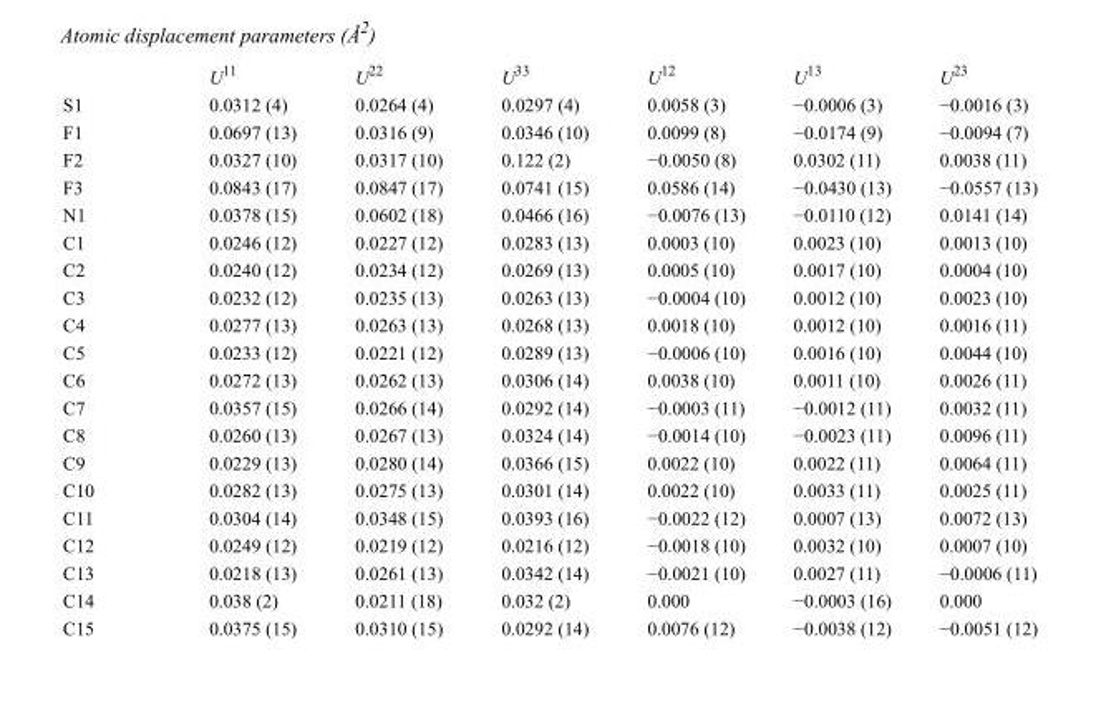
<table><thead><tr><td></td><td>U<sup>11</sup></td><td>U<sup>22</sup></td><td>U<sup>33</sup></td><td>U<sup>12</sup></td><td>U<sup>13</sup></td><td>U<sup>23</sup></td></tr></thead><tbody><tr><td>S1</td><td>0.0312 (4)</td><td>0.0264 (4)</td><td>0.0297 (4)</td><td>0.0058 (3)</td><td>−0.0006 (3)</td><td>−0.0016 (3)</td></tr><tr><td>F1</td><td>0.0697 (13)</td><td>0.0316 (9)</td><td>0.0346 (10)</td><td>0.0099 (8)</td><td>−0.0174 (9)</td><td>−0.0094 (7)</td></tr><tr><td>F2</td><td>0.0327 (10)</td><td>0.0317 (10)</td><td>0.122 (2)</td><td>−0.0050 (8)</td><td>0.0302 (11)</td><td>0.0038 (11)</td></tr><tr><td>F3</td><td>0.0843 (17)</td><td>0.0847 (17)</td><td>0.0741 (15)</td><td>0.0586 (14)</td><td>−0.0430 (13)</td><td>−0.0557 (13)</td></tr><tr><td>N1</td><td>0.0378 (15)</td><td>0.0602 (18)</td><td>0.0466 (16)</td><td>−0.0076 (13)</td><td>−0.0110 (12)</td><td>0.0141 (14)</td></tr><tr><td>C1</td><td>0.0246 (12)</td><td>0.0227 (12)</td><td>0.0283 (13)</td><td>0.0003 (10)</td><td>0.0023 (10)</td><td>0.0013 (10)</td></tr><tr><td>C2</td><td>0.0240 (12)</td><td>0.0234 (12)</td><td>0.0269 (13)</td><td>0.0005 (10)</td><td>0.0017 (10)</td><td>0.0004 (10)</td></tr><tr><td>C3</td><td>0.0232 (12)</td><td>0.0235 (13)</td><td>0.0263 (13)</td><td>−0.0004 (10)</td><td>0.0012 (10)</td><td>0.0023 (10)</td></tr><tr><td>C4</td><td>0.0277 (13)</td><td>0.0263 (13)</td><td>0.0268 (13)</td><td>0.0018 (10)</td><td>0.0012 (10)</td><td>0.0016 (11)</td></tr><tr><td>C5</td><td>0.0233 (12)</td><td>0.0221 (12)</td><td>0.0289 (13)</td><td>−0.0006 (10)</td><td>0.0016 (10)</td><td>0.0044 (10)</td></tr><tr><td>C6</td><td>0.0272 (13)</td><td>0.0262 (13)</td><td>0.0306 (14)</td><td>0.0038 (10)</td><td>0.0011 (10)</td><td>0.0026 (11)</td></tr><tr><td>C7</td><td>0.0357 (15)</td><td>0.0266 (14)</td><td>0.0292 (14)</td><td>−0.0003 (11)</td><td>−0.0012 (11)</td><td>0.0032 (11)</td></tr><tr><td>C8</td><td>0.0260 (13)</td><td>0.0267 (13)</td><td>0.0324 (14)</td><td>−0.0014 (10)</td><td>−0.0023 (11)</td><td>0.0096 (11)</td></tr><tr><td>C9</td><td>0.0229 (13)</td><td>0.0280 (14)</td><td>0.0366 (15)</td><td>0.0022 (10)</td><td>0.0022 (11)</td><td>0.0064 (11)</td></tr><tr><td>C10</td><td>0.0282 (13)</td><td>0.0275 (13)</td><td>0.0301 (14)</td><td>0.0022 (10)</td><td>0.0033 (11)</td><td>0.0025 (11)</td></tr><tr><td>C11</td><td>0.0304 (14)</td><td>0.0348 (15)</td><td>0.0393 (16)</td><td>−0.0022 (12)</td><td>0.0007 (13)</td><td>0.0072 (13)</td></tr><tr><td>C12</td><td>0.0249 (12)</td><td>0.0219 (12)</td><td>0.0216 (12)</td><td>−0.0018 (10)</td><td>0.0032 (10)</td><td>0.0007 (10)</td></tr><tr><td>C13</td><td>0.0218 (13)</td><td>0.0261 (13)</td><td>0.0342 (14)</td><td>−0.0021 (10)</td><td>0.0027 (11)</td><td>−0.0006 (11)</td></tr><tr><td>C14</td><td>0.038 (2)</td><td>0.0211 (18)</td><td>0.032 (2)</td><td>0.000</td><td>−0.0003 (16)</td><td>0.000</td></tr><tr><td>C15</td><td>0.0375 (15)</td><td>0.0310 (15)</td><td>0.0292 (14)</td><td>0.0076 (12)</td><td>−0.0038 (12)</td><td>−0.0051 (12)</td></tr></tbody></table>